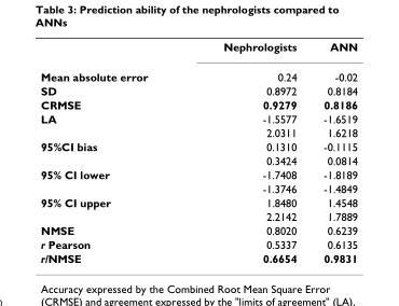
<table><thead><tr><td></td><td>Nephrologists</td><td>ANN</td></tr></thead><tbody><tr><td>Mean absolute error</td><td>0.24</td><td>-0.02</td></tr><tr><td>SD</td><td>0.8972</td><td>0.8184</td></tr><tr><td>CRMSE</td><td>0.9279</td><td>0.8186</td></tr><tr><td rowspan="2">LA</td><td>-1.5577</td><td>-1.6519</td></tr><tr><td>2.0311</td><td>1.6218</td></tr><tr><td rowspan="2">95%CI bias</td><td>0.1310</td><td>-0.1115</td></tr><tr><td>0.3424</td><td>0.0814</td></tr><tr><td rowspan="2">95% CI lower</td><td>-1.7408</td><td>-1.8189</td></tr><tr><td>-1.3746</td><td>-1.4849</td></tr><tr><td rowspan="2">95% CI upper</td><td>1.8480</td><td>1.4548</td></tr><tr><td>2.2142</td><td>1.7889</td></tr><tr><td>NMSE</td><td>0.8020</td><td>0.6239</td></tr><tr><td>r Pearson</td><td>0.5337</td><td>0.6135</td></tr><tr><td>r/NMSE</td><td>0.6654</td><td>0.9831</td></tr></tbody></table>